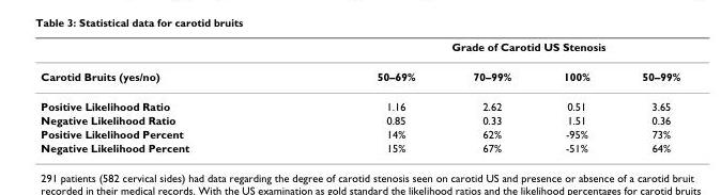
<table><thead><tr><td rowspan="2">Carotid Bruits (yes/no)</td><td colspan="4">Grade of Carotid US Stenosis</td></tr><tr><td>50–69%</td><td>70–99%</td><td>100%</td><td>50–99%</td></tr></thead><tbody><tr><td>Positive Likelihood Ratio</td><td>1.16</td><td>2.62</td><td>0.51</td><td>3.65</td></tr><tr><td>Negative Likelihood Ratio</td><td>0.85</td><td>0.33</td><td>1.51</td><td>0.36</td></tr><tr><td>Positive Likelihood Percent</td><td>14%</td><td>62%</td><td>-95%</td><td>73%</td></tr><tr><td>Negative Likelihood Percent</td><td>15%</td><td>67%</td><td>-51%</td><td>64%</td></tr></tbody></table>